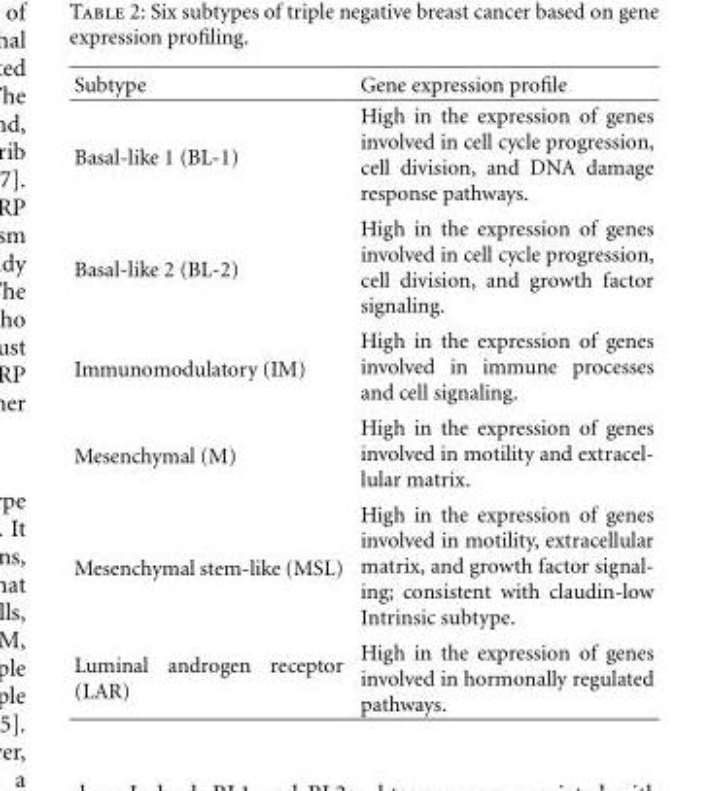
<table><thead><tr><td>Subtype</td><td>Gene expression profile</td></tr></thead><tbody><tr><td>Basal-like 1 (BL-1)</td><td>High in the expression of genes involved in cell cycle progression, cell division, and DNA damage response pathways.</td></tr><tr><td>Basal-like 2 (BL-2)</td><td>High in the expression of genes involved in cell cycle progression, cell division, and growth factor signaling.</td></tr><tr><td>Immunomodulatory (IM)</td><td>High in the expression of genes involved in immune processes and cell signaling.</td></tr><tr><td>Mesenchymal (M)</td><td>High in the expression of genes involved in motility and extracel- lular matrix.</td></tr><tr><td>Mesenchymal stem-like (MSL)</td><td>High in the expression of genes involved in motility, extracellular matrix, and growth factor signal- ing; consistent with claudin-low Intrinsic subtype.</td></tr><tr><td>Luminal androgen receptor (LAR)</td><td>High in the expression of genes involved in hormonally regulated pathways.</td></tr></tbody></table>